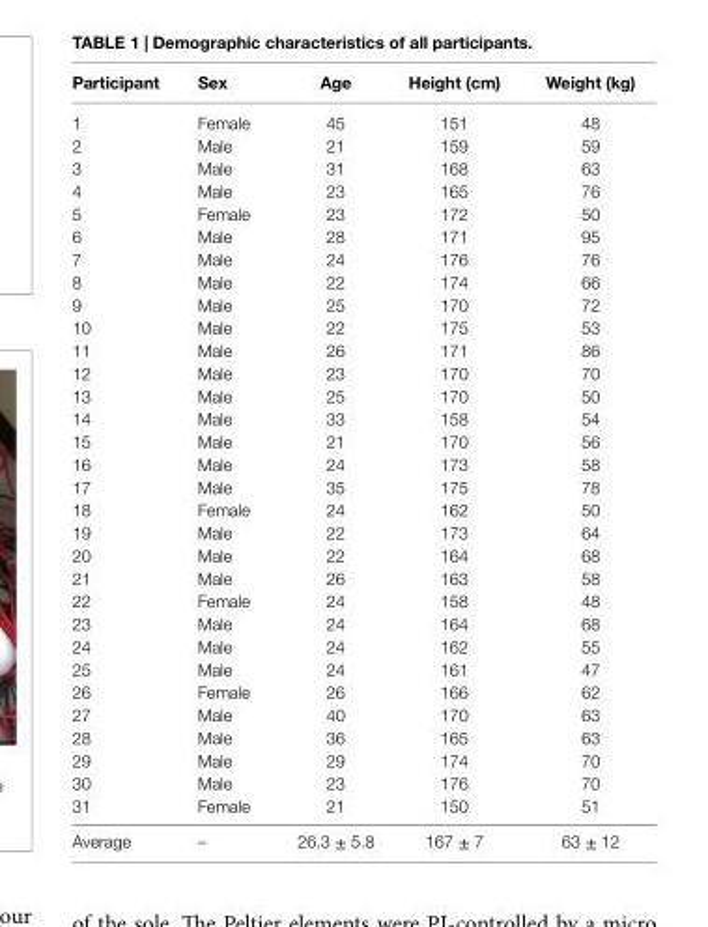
<table><thead><tr><td>Participant</td><td>sex</td><td>age</td><td>height (cm)</td><td>Weight (kg)</td></tr></thead><tbody><tr><td>1</td><td>Female</td><td>45</td><td>151</td><td>48</td></tr><tr><td>2</td><td>Male</td><td>21</td><td>159</td><td>59</td></tr><tr><td>3</td><td>Male</td><td>31</td><td>168</td><td>63</td></tr><tr><td>4</td><td>Male</td><td>23</td><td>165</td><td>76</td></tr><tr><td>5</td><td>Female</td><td>23</td><td>172</td><td>50</td></tr><tr><td>6</td><td>Male</td><td>28</td><td>171</td><td>95</td></tr><tr><td>7</td><td>Male</td><td>24</td><td>176</td><td>76</td></tr><tr><td>8</td><td>Male</td><td>22</td><td>174</td><td>66</td></tr><tr><td>9</td><td>Male</td><td>25</td><td>170</td><td>72</td></tr><tr><td>10</td><td>Male</td><td>22</td><td>175</td><td>53</td></tr><tr><td>11</td><td>Male</td><td>26</td><td>171</td><td>86</td></tr><tr><td>12</td><td>Male</td><td>23</td><td>170</td><td>70</td></tr><tr><td>13</td><td>Male</td><td>25</td><td>170</td><td>50</td></tr><tr><td>14</td><td>Male</td><td>33</td><td>158</td><td>54</td></tr><tr><td>15</td><td>Male</td><td>21</td><td>170</td><td>56</td></tr><tr><td>16</td><td>Male</td><td>24</td><td>173</td><td>58</td></tr><tr><td>17</td><td>Male</td><td>35</td><td>175</td><td>78</td></tr><tr><td>18</td><td>Female</td><td>24</td><td>162</td><td>50</td></tr><tr><td>19</td><td>Male</td><td>22</td><td>173</td><td>64</td></tr><tr><td>20</td><td>Male</td><td>22</td><td>164</td><td>68</td></tr><tr><td>21</td><td>Male</td><td>26</td><td>163</td><td>58</td></tr><tr><td>22</td><td>Female</td><td>24</td><td>158</td><td>48</td></tr><tr><td>23</td><td>Male</td><td>24</td><td>164</td><td>68</td></tr><tr><td>24</td><td>Male</td><td>24</td><td>162</td><td>55</td></tr><tr><td>25</td><td>Male</td><td>24</td><td>161</td><td>47</td></tr><tr><td>26</td><td>Female</td><td>26</td><td>166</td><td>62</td></tr><tr><td>27</td><td>Male</td><td>40</td><td>170</td><td>63</td></tr><tr><td>28</td><td>Male</td><td>36</td><td>165</td><td>63</td></tr><tr><td>29</td><td>Male</td><td>29</td><td>174</td><td>70</td></tr><tr><td>30</td><td>Male</td><td>23</td><td>176</td><td>70</td></tr><tr><td>31</td><td>Female</td><td>21</td><td>150</td><td>51</td></tr><tr><td>Average</td><td>–</td><td>26.3 ± 5.8</td><td>167 ± 7</td><td>63 ± 12</td></tr></tbody></table>